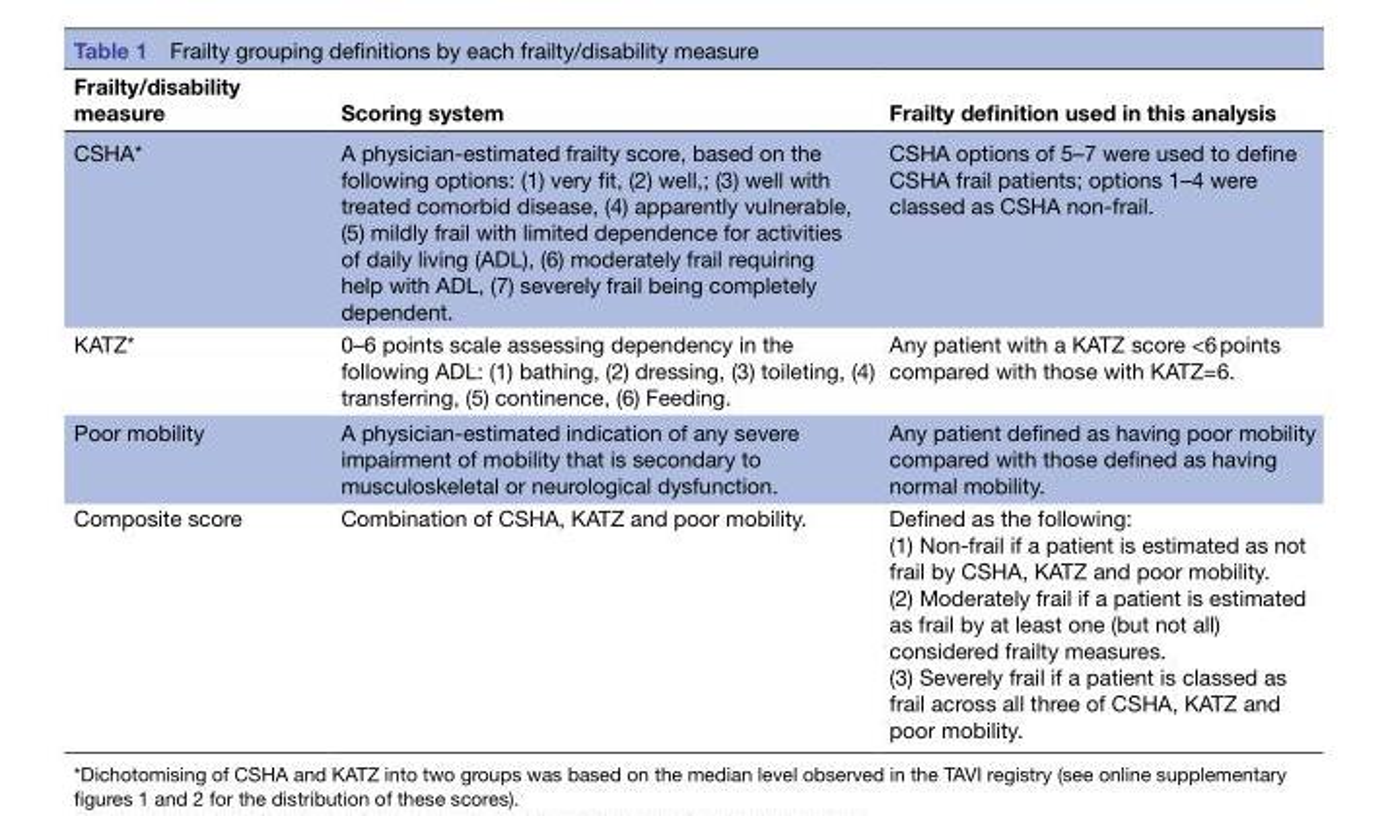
<table><thead><tr><td>Frailty/disability measure</td><td>Scoring system</td><td>Frailty definition used in this analysis</td></tr></thead><tbody><tr><td>CSHA*</td><td>A physician-estimated frailty score, based on the following options: (1) very fit, (2) well,; (3) well with treated comorbid disease, (4) apparently vulnerable, (5) mildly frail with limited dependence for activities of daily living (ADL), (6) moderately frail requiring help with ADL, (7) severely frail being completely dependent.</td><td>CSHA options of 5–7 were used to define CSHA frail patients; options 1–4 were classed as CSHA non-frail.</td></tr><tr><td>KATZ*</td><td>0–6 points scale assessing dependency in the following ADL: (1) bathing, (2) dressing, (3) toileting, (4) transferring, (5) continence, (6) Feeding.</td><td>Any patient with a KATZ score &lt;6 points compared with those with KATZ=6.</td></tr><tr><td>Poor mobility</td><td>A physician-estimated indication of any severe impairment of mobility that is secondary to musculoskeletal or neurological dysfunction.</td><td>Any patient defined as having poor mobility compared with those defined as having normal mobility.</td></tr><tr><td>Composite score</td><td>Combination of CSHA, KATZ and poor mobility.</td><td>Defined as the following: (1) Non-frail if a patient is estimated as not frail by CSHA, KATZ and poor mobility. (2) Moderately frail if a patient is estimated as frail by at least one (but not all) considered frailty measures. (3) Severely frail if a patient is classed as frail across all three of CSHA, KATZ and poor mobility.</td></tr></tbody></table>